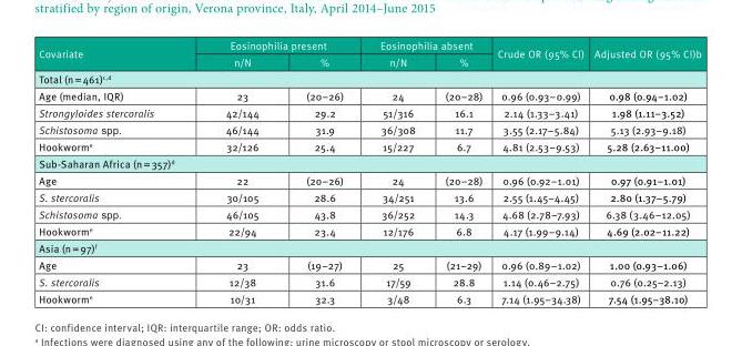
<table><thead><tr><td rowspan="2">Covariate</td><td colspan="2">Eosinophilia present</td><td colspan="2">Eosinophilia absent</td><td rowspan="2">Crude OR (95% CI)</td><td rowspan="2">Adjusted OR (95% CI)<sup>b</sup></td></tr><tr><td>n/N</td><td>%</td><td>n/N</td><td>%</td></tr></thead><tbody><tr><td colspan="7">Total (n = 461)<sup>c,d</sup></td></tr><tr><td>Age (median, IQR)</td><td>23</td><td>(20–26)</td><td>24</td><td>(20–28)</td><td>0.96 (0.93–0.99)</td><td>0.98 (0.94–1.02)</td></tr><tr><td>Strongyloides stercoralis</td><td>42/144</td><td>29.2</td><td>51/316</td><td>16.1</td><td>2.14 (1.33–3.41)</td><td>1.98 (1.11–3.52)</td></tr><tr><td>Schistosoma spp.</td><td>46/144</td><td>31.9</td><td>36/308</td><td>11.7</td><td>3.55 (2.17–5.84)</td><td>5.13 (2.93–9.18)</td></tr><tr><td>Hookworm<sup>e</sup></td><td>32/126</td><td>25.4</td><td>15/227</td><td>6.7</td><td>4.81 (2.53–9.53)</td><td>5.28 (2.63–11.00)</td></tr><tr><td colspan="7">Sub-Saharan Africa (n = 357)<sup>d</sup></td></tr><tr><td>Age</td><td>22</td><td>(20–26)</td><td>24</td><td>(20–28)</td><td>0.96 (0.92–1.01)</td><td>0.97 (0.91–1.01)</td></tr><tr><td>S. stercoralis</td><td>30/105</td><td>28.6</td><td>34/251</td><td>13.6</td><td>2.55 (1.45–4.45)</td><td>2.80 (1.37–5.79)</td></tr><tr><td>Schistosoma spp.</td><td>46/105</td><td>43.8</td><td>36/252</td><td>14.3</td><td>4.68 (2.78–7.93)</td><td>6.38 (3.46–12.05)</td></tr><tr><td>Hookworm<sup>e</sup></td><td>22/94</td><td>23.4</td><td>12/176</td><td>6.8</td><td>4.17 (1.99–9.14)</td><td>4.69 (2.02–11.22)</td></tr><tr><td colspan="7">Asia (n = 97)<sup>f</sup></td></tr><tr><td>Age</td><td>23</td><td>(19–27)</td><td>25</td><td>(21–29)</td><td>0.96 (0.89–1.02)</td><td>1.00 (0.93–1.06)</td></tr><tr><td>S. stercoralis</td><td>12/38</td><td>31.6</td><td>17/59</td><td>28.8</td><td>1.14 (0.46–2.75)</td><td>0.76 (0.25–2.13)</td></tr><tr><td>Hookworm<sup>e</sup></td><td>10/31</td><td>32.3</td><td>3/48</td><td>6.3</td><td>7.14 (1.95–34.38)</td><td>7.54 (1.95–38.10)</td></tr></tbody></table>